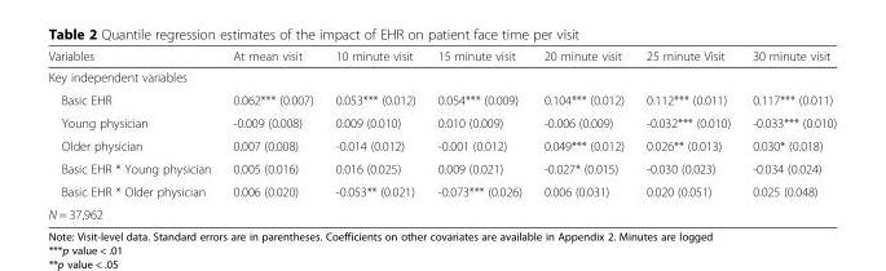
<table><thead><tr><td>Variables</td><td>At mean visit</td><td>10 minute visit</td><td>15 minute visit</td><td>20 minute visit</td><td>25 minute Visit</td><td>30 minute visit</td></tr></thead><tbody><tr><td colspan="7">Key independent variables</td></tr><tr><td>Basic EHR</td><td>0.062*** (0.007)</td><td>0.053*** (0.012)</td><td>0.054*** (0.009)</td><td>0.104*** (0.012)</td><td>0.112*** (0.011)</td><td>0.117*** (0.011)</td></tr><tr><td>Young physician</td><td>-0.009 (0.008)</td><td>0.009 (0.010)</td><td>0.010 (0.009)</td><td>-0.006 (0.009)</td><td>-0.032*** (0.010)</td><td>-0.033*** (0.010)</td></tr><tr><td>Older physician</td><td>0.007 (0.008)</td><td>-0.014 (0.012)</td><td>-0.001 (0.012)</td><td>0.049*** (0.012)</td><td>0.026** (0.013)</td><td>0.030* (0.018)</td></tr><tr><td>Basic EHR * Young physician</td><td>0.005 (0.016)</td><td>0.016 (0.025)</td><td>0.009 (0.021)</td><td>-0.027* (0.015)</td><td>-0.030 (0.023)</td><td>-0.034 (0.024)</td></tr><tr><td>Basic EHR * Older physician</td><td>0.006 (0.020)</td><td>-0.053** (0.021)</td><td>-0.073*** (0.026)</td><td>0.006 (0.031)</td><td>0.020 (0.051)</td><td>0.025 (0.048)</td></tr><tr><td>N = 37,962</td><td></td><td></td><td></td><td></td><td></td><td></td></tr></tbody></table>